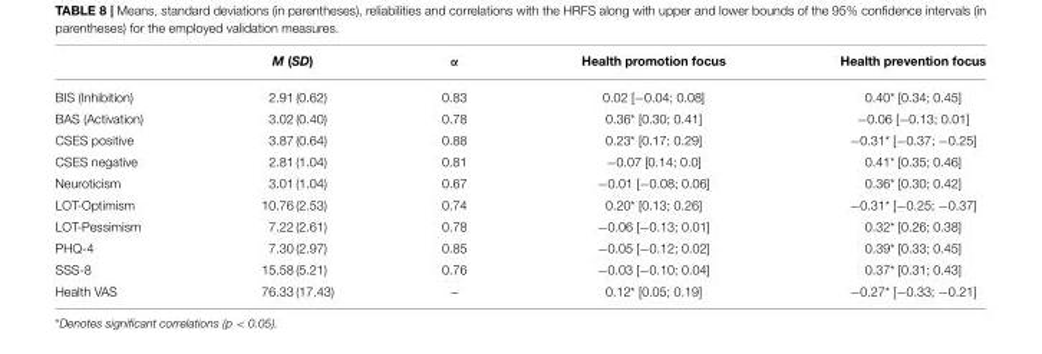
<table><thead><tr><td></td><td>M (SD)</td><td>α</td><td>Health promotion focus</td><td>Health prevention focus</td></tr></thead><tbody><tr><td>BIS (Inhibition)</td><td>2.91 (0.62)</td><td>0.83</td><td>0.02 [−0.04; 0.08]</td><td>0.40* [0.34; 0.45]</td></tr><tr><td>BAS (Activation)</td><td>3.02 (0.40)</td><td>0.78</td><td>0.36* [0.30; 0.41]</td><td>−0.06 [−0.13; 0.01]</td></tr><tr><td>CSES positive</td><td>3.87 (0.64)</td><td>0.88</td><td>0.23* [0.17; 0.29]</td><td>−0.31* [−0.37; −0.25]</td></tr><tr><td>CSES negative</td><td>2.81 (1.04)</td><td>0.81</td><td>−0.07 [0.14; 0.0]</td><td>0.41* [0.35; 0.46]</td></tr><tr><td>Neuroticism</td><td>3.01 (1.04)</td><td>0.67</td><td>−0.01 [−0.08; 0.06]</td><td>0.36* [0.30; 0.42]</td></tr><tr><td>LOT-Optimism</td><td>10.76 (2.53)</td><td>0.74</td><td>0.20* [0.13; 0.26]</td><td>−0.31* [−0.25; −0.37]</td></tr><tr><td>LOT-Pessimism</td><td>7.22 (2.61)</td><td>0.78</td><td>−0.06 [−0.13; 0.01]</td><td>0.32* [0.26; 0.38]</td></tr><tr><td>PHQ-4</td><td>7.30 (2.97)</td><td>0.85</td><td>−0.05 [−0.12; 0.02]</td><td>0.39* [0.33; 0.45]</td></tr><tr><td>SSS-8</td><td>15.58 (5.21)</td><td>0.76</td><td>−0.03 [−0.10; 0.04]</td><td>0.37* [0.31; 0.43]</td></tr><tr><td>Health VAS</td><td>76.33 (17.43)</td><td>–</td><td>0.12* [0.05; 0.19]</td><td>−0.27* [−0.33; −0.21]</td></tr></tbody></table>